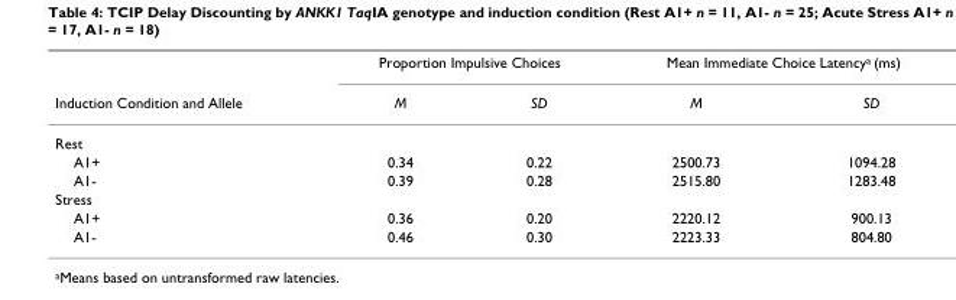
<table><thead><tr><td rowspan="2">Induction Condition and Allele</td><td colspan="2">Proportion Impulsive Choices</td><td colspan="2">Mean Immediate Choice Latency<sup>a</sup> (ms)</td></tr><tr><td>M</td><td>SD</td><td>M</td><td>SD</td></tr></thead><tbody><tr><td colspan="5">Rest</td></tr><tr><td>A1+</td><td>0.34</td><td>0.22</td><td>2500.73</td><td>1094.28</td></tr><tr><td>A1-</td><td>0.39</td><td>0.28</td><td>2515.80</td><td>1283.48</td></tr><tr><td colspan="5">Stress</td></tr><tr><td>A1+</td><td>0.36</td><td>0.20</td><td>2220.12</td><td>900.13</td></tr><tr><td>A1-</td><td>0.46</td><td>0.30</td><td>2223.33</td><td>804.80</td></tr></tbody></table>